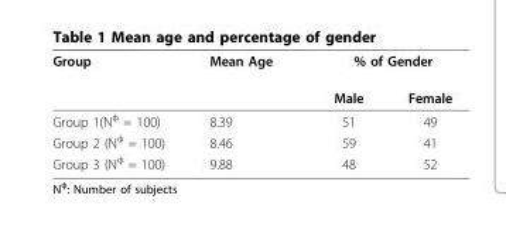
<table><thead><tr><td rowspan="2">Group</td><td rowspan="2">Mean Age</td><td colspan="2">% of Gender</td></tr><tr><td>Male</td><td>Female</td></tr></thead><tbody><tr><td>Group 1(N<sup>ф</sup> = 100)</td><td>8.39</td><td>51</td><td>49</td></tr><tr><td>Group 2 (N<sup>ф</sup> = 100)</td><td>8.46</td><td>59</td><td>41</td></tr><tr><td>Group 3 (N<sup>ф</sup> = 100)</td><td>9.88</td><td>48</td><td>52</td></tr></tbody></table>